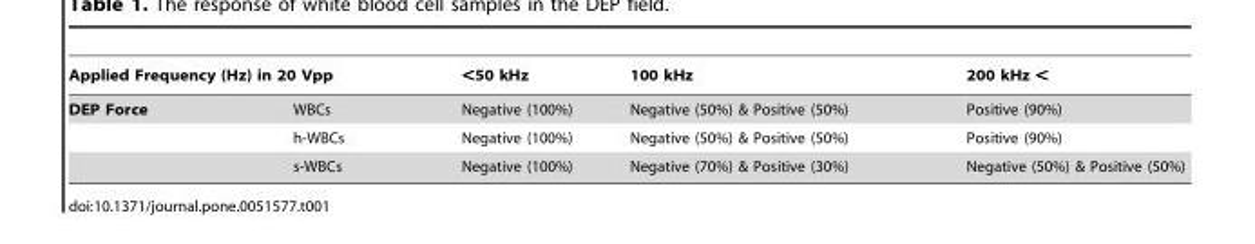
<table><thead><tr><td colspan="2">Applied Frequency (Hz) in 20 Vpp</td><td rowspan="2">&lt;50 kHz Negative (100%)</td><td rowspan="2">100 kHz Negative (50%) &amp; Positive (50%)</td><td rowspan="2">200 kHz &lt; Positive (90%)</td></tr><tr><td>DEP Force</td><td>WBCs</td></tr></thead><tbody><tr><td></td><td>h-WBCs</td><td>Negative (100%)</td><td>Negative (50%) &amp; Positive (50%)</td><td>Positive (90%)</td></tr><tr><td></td><td>s-WBCs</td><td>Negative (100%)</td><td>Negative (70%) &amp; Positive (30%)</td><td>Negative (50%) &amp; Positive (50%)</td></tr></tbody></table>